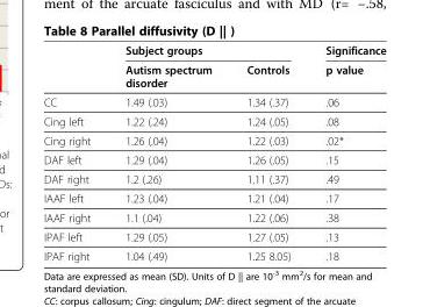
<table><thead><tr><td rowspan="2"></td><td colspan="2">Subject groups</td><td rowspan="2">Significance p value</td></tr><tr><td>Autism spectrum disorder</td><td>Controls</td></tr></thead><tbody><tr><td>CC</td><td>1.49 (.03)</td><td>1.34 (.37)</td><td>.06</td></tr><tr><td>Cing left</td><td>1.22 (.24)</td><td>1.24 (.05)</td><td>.08</td></tr><tr><td>Cing right</td><td>1.26 (.04)</td><td>1.22 (.03)</td><td>.02*</td></tr><tr><td>DAF left</td><td>1.29 (.04)</td><td>1.26 (.05)</td><td>.15</td></tr><tr><td>DAF right</td><td>1.2 (.26)</td><td>1.11 (.37)</td><td>.49</td></tr><tr><td>IAAF left</td><td>1.23 (.04)</td><td>1.21 (.04)</td><td>.17</td></tr><tr><td>IAAF right</td><td>1.1 (.04)</td><td>1.22 (.06)</td><td>.38</td></tr><tr><td>IPAF left</td><td>1.29 (.05)</td><td>1.27 (.05)</td><td>.13</td></tr><tr><td>IPAF right</td><td>1.04 (.49)</td><td>1.25 8.05)</td><td>.18</td></tr></tbody></table>